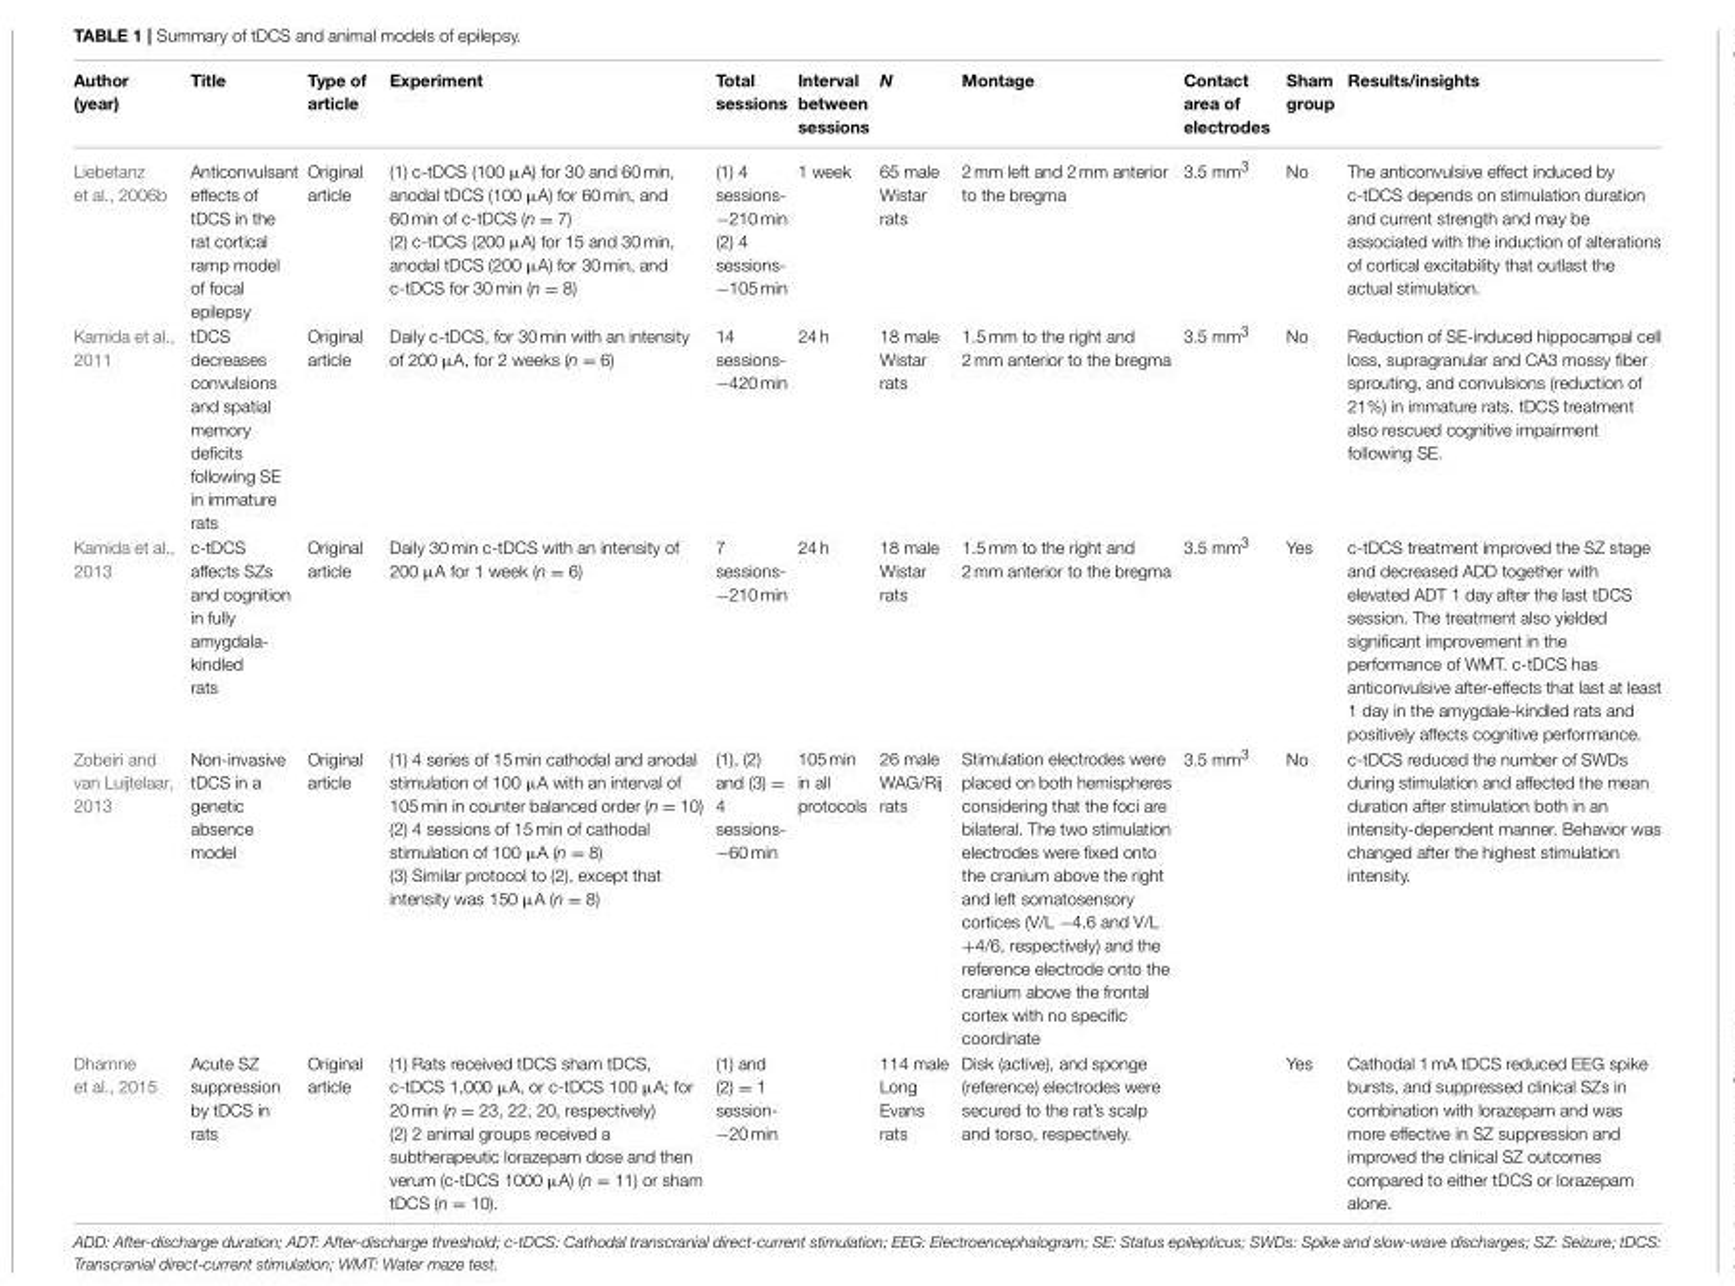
<table><thead><tr><td>Author (year)</td><td>Title</td><td>Type of article</td><td>Experiment</td><td>Total sessions</td><td>Interval between sessions</td><td>N</td><td>Montage</td><td>Contact area of electrodes</td><td>Sham group</td><td>Results/insights</td></tr></thead><tbody><tr><td>Liebetanz et al., 2006b</td><td>Anticonvulsant effects of tDCS in the rat cortical ramp model of focal epilepsy</td><td>Original article</td><td>(1) c-tDCS (100 µA) for 30 and 60 min, anodal tDCS (100 µA) for 60 min, and 60 min of c-tDCS (n = 7) (2) c-tDCS (200 µA) for 15 and 30 min, anodal tDCS (200 µA) for 30 min, and c-tDCS for 30 min (n = 8)</td><td>(1) 4 sessions- −210 min (2) 4 sessions- −105 min</td><td>1 week</td><td>65 male Wistar rats</td><td>2 mm left and 2 mm anterior to the bregma</td><td>3.5 mm<sup>3</sup></td><td>No</td><td>The anticonvulsive effect induced by c-tDCS depends on stimulation duration and current strength and may be associated with the induction of alterations of cortical excitability that outlast the actual stimulation.</td></tr><tr><td>Kamida et al., 2011</td><td>tDCS decreases convulsions and spatial memory deficits following SE in immature rats</td><td>Original article</td><td>Daily c-tDCS, for 30 min with an intensity of 200 µA, for 2 weeks (n = 6)</td><td>14 sessions- −420 min</td><td>24 h</td><td>18 male Wistar rats</td><td>1.5 mm to the right and 2 mm anterior to the bregma</td><td>3.5 mm<sup>3</sup></td><td>No</td><td>Reduction of SE-induced hippocampal cell loss, supragranular and CA3 mossy fiber sprouting, and convulsions (reduction of 21%) in immature rats. tDCS treatment also rescued cognitive impairment following SE.</td></tr><tr><td>Kamida et al., 2013</td><td>c-tDCS affects SZs and cognition in fully amygdala- kindled rats</td><td>Original article</td><td>Daily 30 min c-tDCS with an intensity of 200 µA for 1 week (n = 6)</td><td>7 sessions- −210 min</td><td>24 h</td><td>18 male Wistar rats</td><td>1.5 mm to the right and 2 mm anterior to the bregma</td><td>3.5 mm<sup>3</sup></td><td>Yes</td><td>c-tDCS treatment improved the SZ stage and decreased ADD together with elevated ADT 1 day after the last tDCS session. The treatment also yielded significant improvement in the performance of WMT. c-tDCS has anticonvulsive after-effects that last at least 1 day in the amygdale-kindled rats and positively affects cognitive performance.</td></tr><tr><td>Zobeiri and van Luijtelaar, 2013</td><td>Non-invasive tDCS in a genetic absence model</td><td>Original article</td><td>(1) 4 series of 15 min cathodal and anodal stimulation of 100 µA with an interval of 105 min in counter balanced order (n = 10) (2) 4 sessions of 15 min of cathodal stimulation of 100 µA (n = 8) (3) Similar protocol to (2), except that intensity was 150 µA (n = 8)</td><td>(1), (2) and (3) = 4 sessions- −60 min</td><td>105 min in all protocols</td><td>26 male WAG/Rij rats</td><td>Stimulation electrodes were placed on both hemispheres considering that the foci are bilateral. The two stimulation electrodes were fixed onto the cranium above the right and left somatosensory cortices (V/L −4.6 and V/L +4/6, respectively) and the reference electrode onto the cranium above the frontal cortex with no specific coordinate</td><td>3.5 mm<sup>3</sup></td><td>No</td><td>c-tDCS reduced the number of SWDs during stimulation and affected the mean duration after stimulation both in an intensity-dependent manner. Behavior was changed after the highest stimulation intensity.</td></tr><tr><td>Dhamne et al., 2015</td><td>Acute SZ suppression by tDCS in rats</td><td>Original article</td><td>(1) Rats received tDCS sham tDCS, c-tDCS 1,000 µA, or c-tDCS 100 µA; for 20 min (n = 23, 22, 20, respectively) (2) 2 animal groups received a subtherapeutic lorazepam dose and then verum (c-tDCS 1000 µA) (n = 11) or sham tDCS (n = 10).</td><td>(1) and (2) = 1 session- −20 min</td><td></td><td>114 male Long Evans rats</td><td>Disk (active), and sponge (reference) electrodes were secured to the rat’s scalp and torso, respectively.</td><td></td><td>Yes</td><td>Cathodal 1 mA tDCS reduced EEG spike bursts, and suppressed clinical SZs in combination with lorazepam and was more effective in SZ suppression and improved the clinical SZ outcomes compared to either tDCS or lorazepam alone.</td></tr></tbody></table>